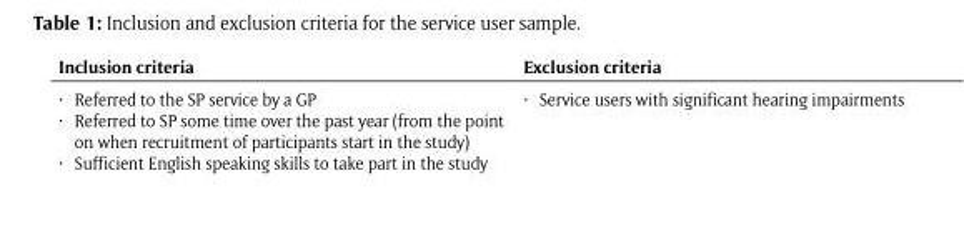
<table><thead><tr><td>Inclusion criteria</td><td>Exclusion criteria</td></tr></thead><tbody><tr><td>• Referred to the SP service by a GP • Referred to SP some time over the past year (from the point on when recruitment of participants start in the study) • Sufficient English speaking skills to take part in the study</td><td>• Service users with significant hearing impairments</td></tr></tbody></table>